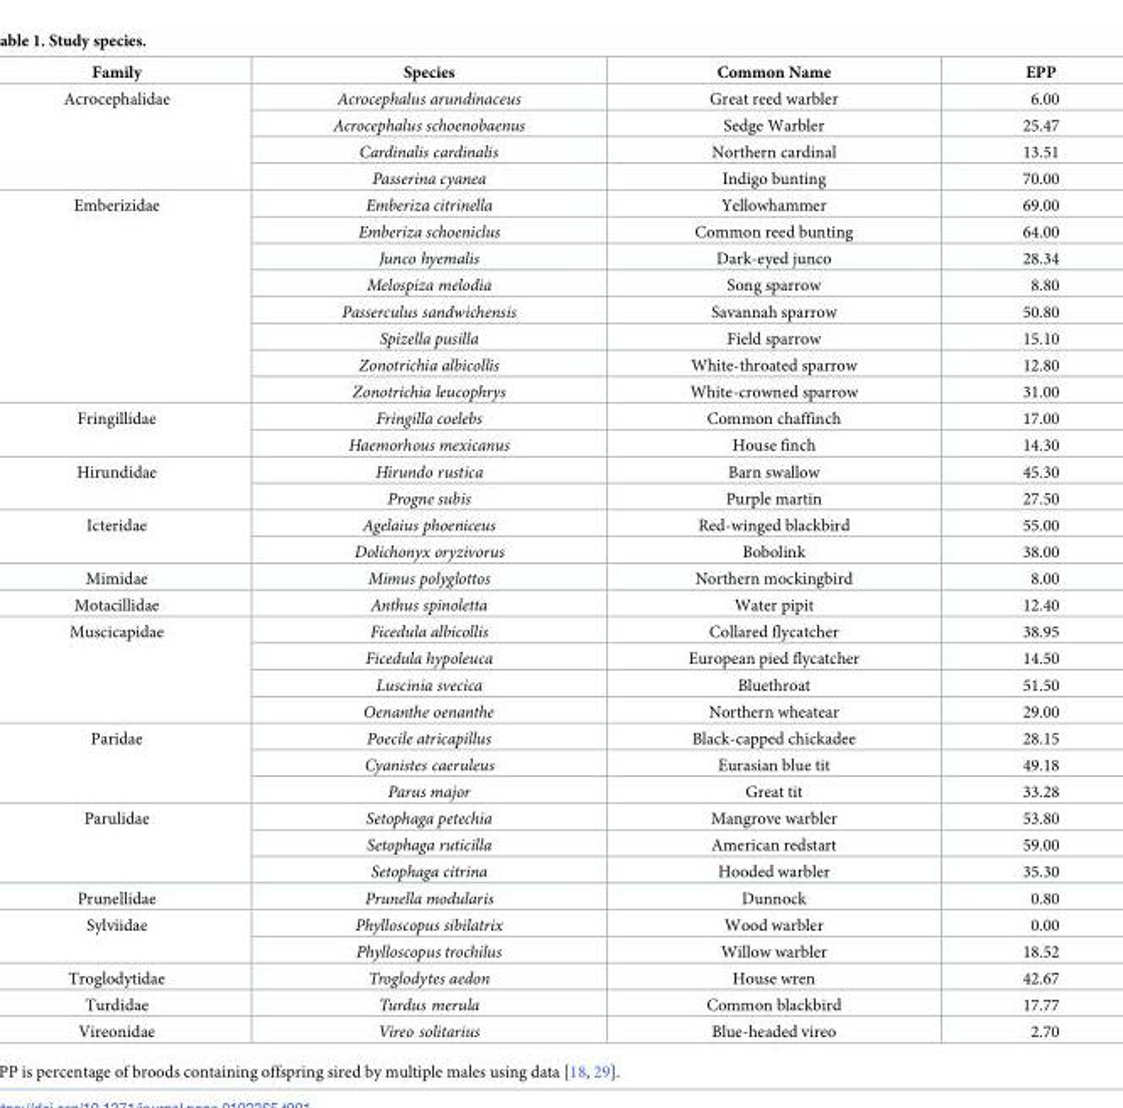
<table><thead><tr><td>Family</td><td>Species</td><td>Common Name</td><td>EPP</td></tr></thead><tbody><tr><td rowspan="4">Acrocephalidae</td><td>Acrocephalus arundinaceus</td><td>Great reed warbler</td><td>6.00</td></tr><tr><td>Acrocephalus schoenobaenus</td><td>Sedge Warbler</td><td>25.47</td></tr><tr><td>Cardinalis cardinalis</td><td>Northern cardinal</td><td>13.51</td></tr><tr><td>Passerina cyanea</td><td>Indigo bunting</td><td>70.00</td></tr><tr><td rowspan="8">Emberizidae</td><td>Emberiza citrinella</td><td>Yellowhammer</td><td>69.00</td></tr><tr><td>Emberiza schoeniclus</td><td>Common reed bunting</td><td>64.00</td></tr><tr><td>Junco hyemalis</td><td>Dark-eyed junco</td><td>28.34</td></tr><tr><td>Melospiza melodia</td><td>Song sparrow</td><td>8.80</td></tr><tr><td>Passerculus sandwichensis</td><td>Savannah sparrow</td><td>50.80</td></tr><tr><td>Spizella pusilla</td><td>Field sparrow</td><td>15.10</td></tr><tr><td>Zonotrichia albicollis</td><td>White-throated sparrow</td><td>12.80</td></tr><tr><td>Zonotrichia leucophrys</td><td>White-crowned sparrow</td><td>31.00</td></tr><tr><td rowspan="2">Fringillidae</td><td>Fringilla coelebs</td><td>Common chaffinch</td><td>17.00</td></tr><tr><td>Haemorhous mexicanus</td><td>House finch</td><td>14.30</td></tr><tr><td rowspan="2">Hirundidae</td><td>Hirundo rustica</td><td>Barn swallow</td><td>45.30</td></tr><tr><td>Progne subis</td><td>Purple martin</td><td>27.50</td></tr><tr><td rowspan="2">Icteridae</td><td>Agelaius phoeniceus</td><td>Red-winged blackbird</td><td>55.00</td></tr><tr><td>Dolichonyx oryzivorus</td><td>Bobolink</td><td>38.00</td></tr><tr><td>Mimidae</td><td>Mimus polyglottos</td><td>Northern mockingbird</td><td>8.00</td></tr><tr><td>Motacillidae</td><td>Anthus spinoletta</td><td>Water pipit</td><td>12.40</td></tr><tr><td rowspan="4">Muscicapidae</td><td>Ficedula albicollis</td><td>Collared flycatcher</td><td>38.95</td></tr><tr><td>Ficedula hypoleuca</td><td>European pied flycatcher</td><td>14.50</td></tr><tr><td>Luscinia svecica</td><td>Bluethroat</td><td>51.50</td></tr><tr><td>Oenanthe oenanthe</td><td>Northern wheatear</td><td>29.00</td></tr><tr><td rowspan="3">Paridae</td><td>Poecile atricapillus</td><td>Black-capped chickadee</td><td>28.15</td></tr><tr><td>Cyanistes caeruleus</td><td>Eurasian blue tit</td><td>49.18</td></tr><tr><td>Parus major</td><td>Great tit</td><td>33.28</td></tr><tr><td rowspan="3">Parulidae</td><td>Setophaga petechia</td><td>Mangrove warbler</td><td>53.80</td></tr><tr><td>Setophaga ruticilla</td><td>American redstart</td><td>59.00</td></tr><tr><td>Setophaga citrina</td><td>Hooded warbler</td><td>35.30</td></tr><tr><td>Prunellidae</td><td>Prunella modularis</td><td>Dunnock</td><td>0.80</td></tr><tr><td rowspan="2">Sylviidae</td><td>Phylloscopus sibilatrix</td><td>Wood warbler</td><td>0.00</td></tr><tr><td>Phylloscopus trochilus</td><td>Willow warbler</td><td>18.52</td></tr><tr><td>Troglodytidae</td><td>Troglodytes aedon</td><td>House wren</td><td>42.67</td></tr><tr><td>Turdidae</td><td>Turdus merula</td><td>Common blackbird</td><td>17.77</td></tr><tr><td>Vireonidae</td><td>Vireo solitarius</td><td>Blue-headed vireo</td><td>2.70</td></tr></tbody></table>